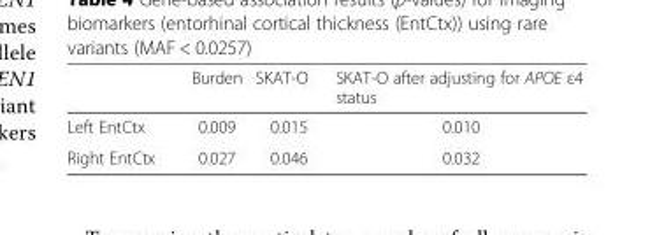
<table><thead><tr><td></td><td>Burden</td><td>SKAT-O</td><td>SKAT-O after adjusting for APOE ε4 status</td></tr></thead><tbody><tr><td>Left EntCtx</td><td>0.009</td><td>0.015</td><td>0.010</td></tr><tr><td>Right EntCtx</td><td>0.027</td><td>0.046</td><td>0.032</td></tr></tbody></table>